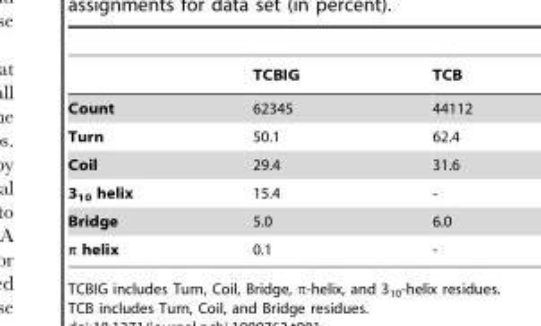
<table><thead><tr><td></td><td>TCBIG</td><td>TCB</td></tr></thead><tbody><tr><td>Count</td><td>62345</td><td>44112</td></tr><tr><td>Turn</td><td>50.1</td><td>62.4</td></tr><tr><td>Coil</td><td>29.4</td><td>31.6</td></tr><tr><td>3<sub>10</sub> helix</td><td>15.4</td><td>-</td></tr><tr><td>Bridge</td><td>5.0</td><td>6.0</td></tr><tr><td>π helix</td><td>0.1</td><td>-</td></tr></tbody></table>